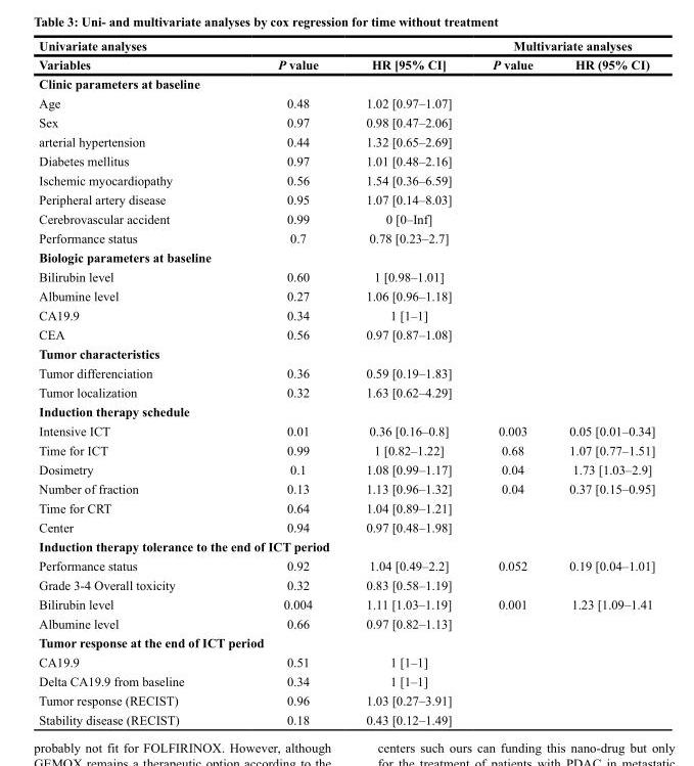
<table><thead><tr><td rowspan="2">Univariate analyses Variables</td><td rowspan="2">P value</td><td rowspan="2">HR [95% CI]</td><td colspan="2">Multivariate analyses</td></tr><tr><td>P value</td><td>HR (95% CI)</td></tr></thead><tbody><tr><td colspan="5">Clinic parameters at baseline</td></tr><tr><td>Age</td><td>0.48</td><td>1.02 [0.97–1.07]</td><td></td><td></td></tr><tr><td>Sex</td><td>0.97</td><td>0.98 [0.47–2.06]</td><td></td><td></td></tr><tr><td>arterial hypertension</td><td>0.44</td><td>1.32 [0.65–2.69]</td><td></td><td></td></tr><tr><td>Diabetes mellitus</td><td>0.97</td><td>1.01 [0.48–2.16]</td><td></td><td></td></tr><tr><td>Ischemic myocardiopathy</td><td>0.56</td><td>1.54 [0.36–6.59]</td><td></td><td></td></tr><tr><td>Peripheral artery disease</td><td>0.95</td><td>1.07 [0.14–8.03]</td><td></td><td></td></tr><tr><td>Cerebrovascular accident</td><td>0.99</td><td>0 [0–Inf]</td><td></td><td></td></tr><tr><td>Performance status</td><td>0.7</td><td>0.78 [0.23–2.7]</td><td></td><td></td></tr><tr><td colspan="5">Biologic parameters at baseline</td></tr><tr><td>Bilirubin level</td><td>0.60</td><td>1 [0.98–1.01]</td><td></td><td></td></tr><tr><td>Albumine level</td><td>0.27</td><td>1.06 [0.96–1.18]</td><td></td><td></td></tr><tr><td>CA19.9</td><td>0.34</td><td>1 [1–1]</td><td></td><td></td></tr><tr><td>CEA</td><td>0.56</td><td>0.97 [0.87–1.08]</td><td></td><td></td></tr><tr><td colspan="5">Tumor characteristics</td></tr><tr><td>Tumor differenciation</td><td>0.36</td><td>0.59 [0.19–1.83]</td><td></td><td></td></tr><tr><td>Tumor localization</td><td>0.32</td><td>1.63 [0.62–4.29]</td><td></td><td></td></tr><tr><td colspan="5">Induction therapy schedule</td></tr><tr><td>Intensive ICT</td><td>0.01</td><td>0.36 [0.16–0.8]</td><td>0.003</td><td>0.05 [0.01–0.34]</td></tr><tr><td>Time for ICT</td><td>0.99</td><td>1 [0.82–1.22]</td><td>0.68</td><td>1.07 [0.77–1.51]</td></tr><tr><td>Dosimetry</td><td>0.1</td><td>1.08 [0.99–1.17]</td><td>0.04</td><td>1.73 [1.03–2.9]</td></tr><tr><td>Number of fraction</td><td>0.13</td><td>1.13 [0.96–1.32]</td><td>0.04</td><td>0.37 [0.15–0.95]</td></tr><tr><td>Time for CRT</td><td>0.64</td><td>1.04 [0.89–1.21]</td><td></td><td></td></tr><tr><td>Center</td><td>0.94</td><td>0.97 [0.48–1.98]</td><td></td><td></td></tr><tr><td colspan="5">Induction therapy tolerance to the end of ICT period</td></tr><tr><td>Performance status</td><td>0.92</td><td>1.04 [0.49–2.2]</td><td>0.052</td><td>0.19 [0.04–1.01]</td></tr><tr><td>Grade 3-4 Overall toxicity</td><td>0.32</td><td>0.83 [0.58–1.19]</td><td></td><td></td></tr><tr><td>Bilirubin level</td><td>0.004</td><td>1.11 [1.03–1.19]</td><td>0.001</td><td>1.23 [1.09–1.41</td></tr><tr><td>Albumine level</td><td>0.66</td><td>0.97 [0.82–1.13]</td><td></td><td></td></tr><tr><td colspan="5">Tumor response at the end of ICT period</td></tr><tr><td>CA19.9</td><td>0.51</td><td>1 [1–1]</td><td></td><td></td></tr><tr><td>Delta CA19.9 from baseline</td><td>0.34</td><td>1 [1–1]</td><td></td><td></td></tr><tr><td>Tumor response (RECIST)</td><td>0.96</td><td>1.03 [0.27–3.91]</td><td></td><td></td></tr><tr><td>Stability disease (RECIST)</td><td>0.18</td><td>0.43 [0.12–1.49]</td><td></td><td></td></tr></tbody></table>